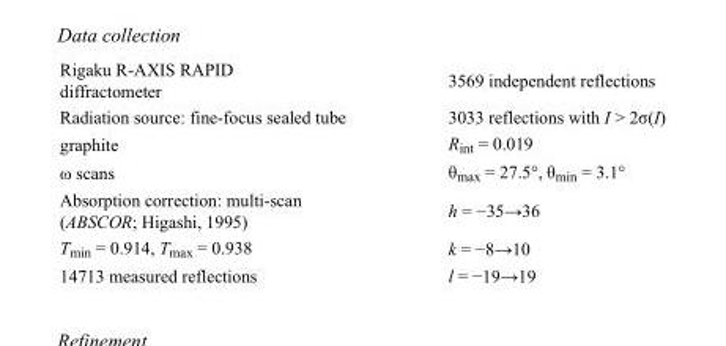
<table><tbody><tr><td>Rigaku R-AXIS RAPID diffractometer</td><td>3569 independent reflections</td></tr><tr><td>Radiation source: fine-focus sealed tube</td><td>3033 reflections with I &gt; 2σ(I)</td></tr><tr><td>graphite</td><td>R<sub>int</sub> = 0.019</td></tr><tr><td>ω scans</td><td>θ<sub>max</sub> = 27.5°, θ<sub>min</sub> = 3.1°</td></tr><tr><td>Absorption correction: multi-scan (ABSCOR; Higashi, 1995)</td><td>h = −35→36</td></tr><tr><td>T<sub>min</sub> = 0.914, T<sub>max</sub> = 0.938</td><td>k = −8→10</td></tr><tr><td>14713 measured reflections</td><td>l = −19→19</td></tr></tbody></table>